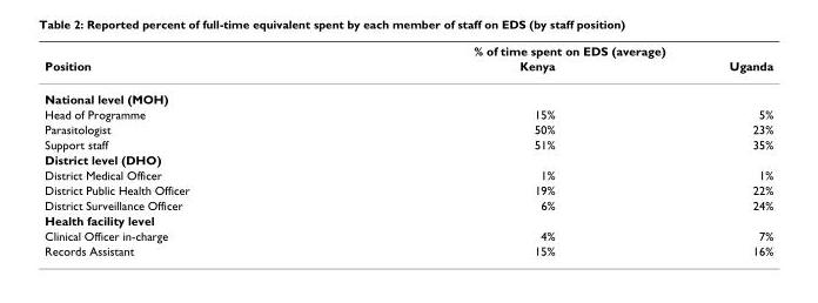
<table><thead><tr><td rowspan="2">Position</td><td colspan="2">% of time spent on EDS (average)</td></tr><tr><td>Kenya</td><td>Uganda</td></tr></thead><tbody><tr><td colspan="3">National level (MOH)</td></tr><tr><td>Head of Programme</td><td>15%</td><td>5%</td></tr><tr><td>Parasitologist</td><td>50%</td><td>23%</td></tr><tr><td>Support staff</td><td>51%</td><td>35%</td></tr><tr><td colspan="3">District level (DHO)</td></tr><tr><td>District Medical Officer</td><td>1%</td><td>1%</td></tr><tr><td>District Public Health Officer</td><td>19%</td><td>22%</td></tr><tr><td>District Surveillance Officer</td><td>6%</td><td>24%</td></tr><tr><td colspan="3">Health facility level</td></tr><tr><td>Clinical Officer in-charge</td><td>4%</td><td>7%</td></tr><tr><td>Records Assistant</td><td>15%</td><td>16%</td></tr></tbody></table>